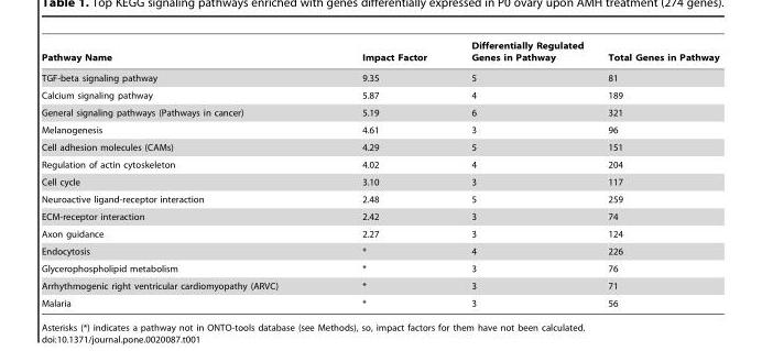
<table><thead><tr><td>Pathway Name</td><td>Impact Factor</td><td>Differentially Regulated Genes in Pathway</td><td>Total Genes in Pathway</td></tr></thead><tbody><tr><td>TGF-beta signaling pathway</td><td>9.35</td><td>5</td><td>81</td></tr><tr><td>Calcium signaling pathway</td><td>5.87</td><td>4</td><td>189</td></tr><tr><td>General signaling pathways (Pathways in cancer)</td><td>5.19</td><td>6</td><td>321</td></tr><tr><td>Melanogenesis</td><td>4.61</td><td>3</td><td>96</td></tr><tr><td>Cell adhesion molecules (CAMs)</td><td>4.29</td><td>5</td><td>151</td></tr><tr><td>Regulation of actin cytoskeleton</td><td>4.02</td><td>4</td><td>204</td></tr><tr><td>Cell cycle</td><td>3.10</td><td>3</td><td>117</td></tr><tr><td>Neuroactive ligand-receptor interaction</td><td>2.48</td><td>5</td><td>259</td></tr><tr><td>ECM-receptor interaction</td><td>2.42</td><td>3</td><td>74</td></tr><tr><td>Axon guidance</td><td>2.27</td><td>3</td><td>124</td></tr><tr><td>Endocytosis</td><td>*</td><td>4</td><td>226</td></tr><tr><td>Glycerophospholipid metabolism</td><td>*</td><td>3</td><td>76</td></tr><tr><td>Arrhythmogenic right ventricular cardiomyopathy (ARVC)</td><td>*</td><td>3</td><td>71</td></tr><tr><td>Malaria</td><td>*</td><td>3</td><td>56</td></tr></tbody></table>